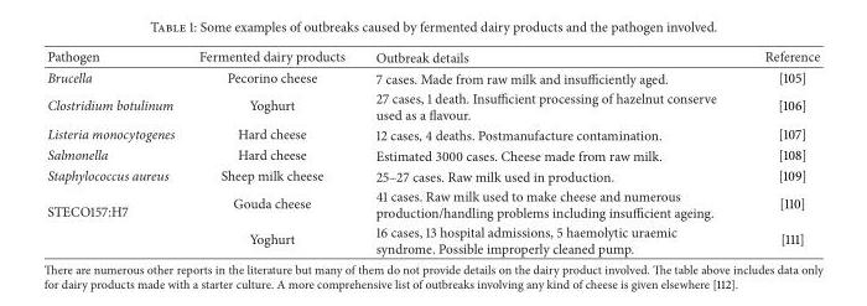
<table><thead><tr><td>Pathogen</td><td>Fermented dairy products</td><td>Outbreak details</td><td>Reference</td></tr></thead><tbody><tr><td>Brucella</td><td>Pecorino cheese</td><td>7 cases. Made from raw milk and insufficiently aged.</td><td>[105]</td></tr><tr><td>Clostridium botulinum</td><td>Yoghurt</td><td>27 cases, 1 death. Insufficient processing of hazelnut conserve used as a flavour.</td><td>[106]</td></tr><tr><td>Listeria monocytogenes</td><td>Hard cheese</td><td>12 cases, 4 deaths. Postmanufacture contamination.</td><td>[107]</td></tr><tr><td>Salmonella</td><td>Hard cheese</td><td>Estimated 3000 cases. Cheese made from raw milk.</td><td>[108]</td></tr><tr><td>Staphylococcus aureus</td><td>Sheep milk cheese</td><td>25–27 cases. Raw milk used in production.</td><td>[109]</td></tr><tr><td rowspan="2">STECO157:H7</td><td>Gouda cheese</td><td>41 cases. Raw milk used to make cheese and numerous production/handling problems including insufficient ageing.</td><td>[110]</td></tr><tr><td>Yoghurt</td><td>16 cases, 13 hospital admissions, 5 haemolytic uraemic syndrome. Possible improperly cleaned pump.</td><td>[111]</td></tr></tbody></table>